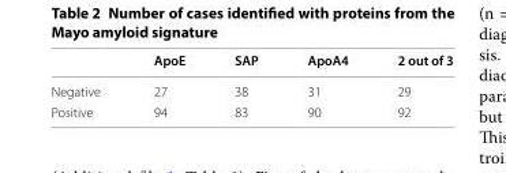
<table><thead><tr><td></td><td>ApoE</td><td>SAP</td><td>ApoA4</td><td>2 out of 3</td></tr></thead><tbody><tr><td>Negative</td><td>27</td><td>38</td><td>31</td><td>29</td></tr><tr><td>Positive</td><td>94</td><td>83</td><td>90</td><td>92</td></tr></tbody></table>